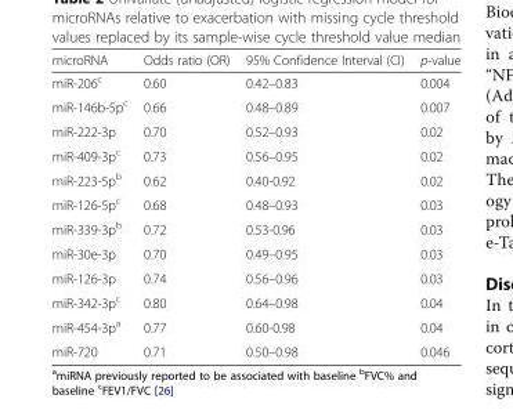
<table><thead><tr><td>microRNA</td><td>Odds ratio (OR)</td><td>95% Confidence Interval (CI)</td><td>p-value</td></tr></thead><tbody><tr><td>miR-206<sup>c</sup></td><td>0.60</td><td>0.42–0.83</td><td>0.004</td></tr><tr><td>miR-146b-5p<sup>c</sup></td><td>0.66</td><td>0.48–0.89</td><td>0.007</td></tr><tr><td>miR-222-3p</td><td>0.70</td><td>0.52–0.93</td><td>0.02</td></tr><tr><td>miR-409-3p<sup>c</sup></td><td>0.73</td><td>0.56–0.95</td><td>0.02</td></tr><tr><td>miR-223-5p<sup>b</sup></td><td>0.62</td><td>0.40-0.92</td><td>0.02</td></tr><tr><td>miR-126-5p<sup>c</sup></td><td>0.68</td><td>0.48–0.93</td><td>0.03</td></tr><tr><td>miR-339-3p<sup>b</sup></td><td>0.72</td><td>0.53-0.96</td><td>0.03</td></tr><tr><td>miR-30e-3p</td><td>0.70</td><td>0.49–0.95</td><td>0.03</td></tr><tr><td>miR-126-3p</td><td>0.74</td><td>0.56–0.96</td><td>0.03</td></tr><tr><td>miR-342-3p<sup>c</sup></td><td>0.80</td><td>0.64–0.98</td><td>0.04</td></tr><tr><td>miR-454-3p<sup>a</sup></td><td>0.77</td><td>0.60-0.98</td><td>0.04</td></tr><tr><td>miR-720</td><td>0.71</td><td>0.50–0.98</td><td>0.046</td></tr></tbody></table>